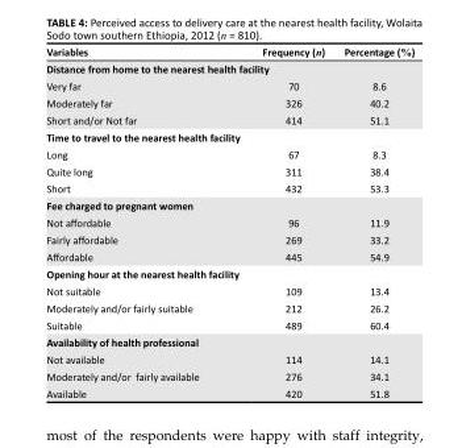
<table><thead><tr><td>Variables</td><td>Frequency (n)</td><td>Percentage (%)</td></tr></thead><tbody><tr><td colspan="3">Distance from home to the nearest health facility</td></tr><tr><td>Very far</td><td>70</td><td>8.6</td></tr><tr><td>Moderately far</td><td>326</td><td>40.2</td></tr><tr><td>Short and/or Not far</td><td>414</td><td>51.1</td></tr><tr><td colspan="3">Time to travel to the nearest health facility</td></tr><tr><td>Long</td><td>67</td><td>8.3</td></tr><tr><td>Quite long</td><td>311</td><td>38.4</td></tr><tr><td>Short</td><td>432</td><td>53.3</td></tr><tr><td colspan="3">Fee charged to pregnant women</td></tr><tr><td>Not affordable</td><td>96</td><td>11.9</td></tr><tr><td>Fairly affordable</td><td>269</td><td>33.2</td></tr><tr><td>Affordable</td><td>445</td><td>54.9</td></tr><tr><td colspan="3">Opening hour at the nearest health facility</td></tr><tr><td>Not suitable</td><td>109</td><td>13.4</td></tr><tr><td>Moderately and/or fairly suitable</td><td>212</td><td>26.2</td></tr><tr><td>Suitable</td><td>489</td><td>60.4</td></tr><tr><td colspan="3">Availability of health professional</td></tr><tr><td>Not available</td><td>114</td><td>14.1</td></tr><tr><td>Moderately and/or fairly available</td><td>276</td><td>34.1</td></tr><tr><td>Available</td><td>420</td><td>51.8</td></tr></tbody></table>